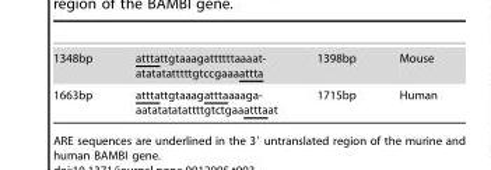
<table><tbody><tr><td>1348bp</td><td>atttattgtaaagattttttaaaat- atatatatttttgtccgaaaattta</td><td>1398bp</td><td>Mouse</td></tr><tr><td>1663bp</td><td>atttattgtaaagatttaaaaga- aatatatatattttgtctgaaatttaat</td><td>1715bp</td><td>Human</td></tr></tbody></table>